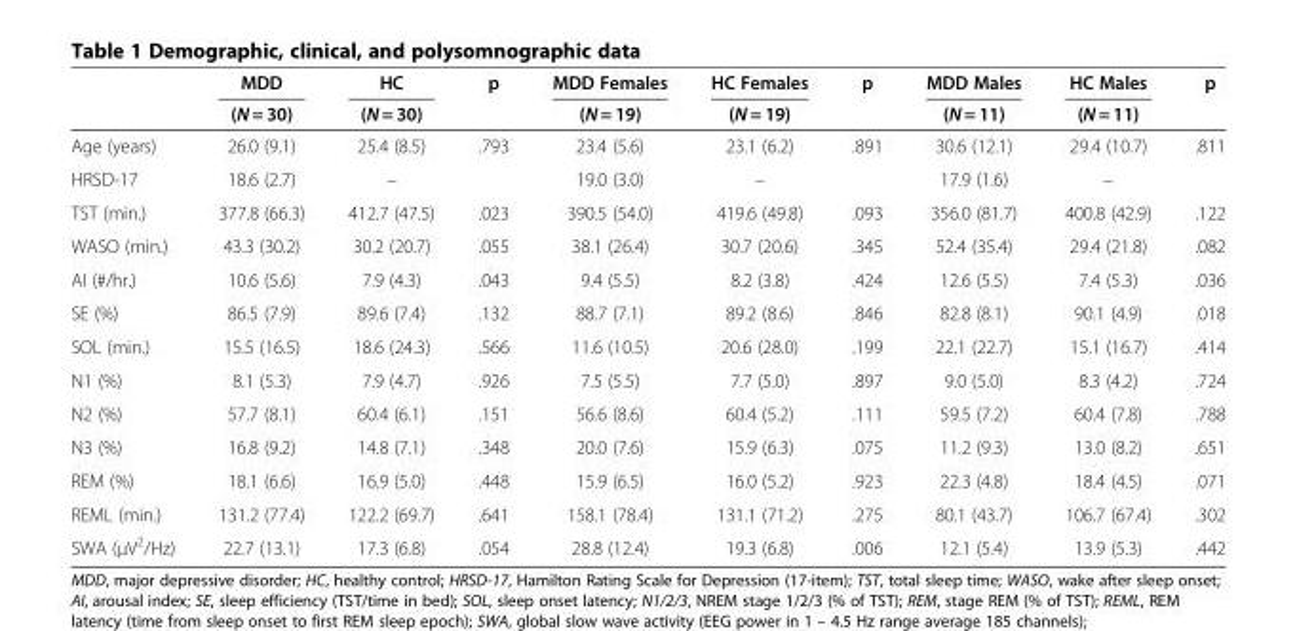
<table><thead><tr><td rowspan="2"></td><td rowspan="2">MDD (N = 30)</td><td rowspan="2">HC (N = 30)</td><td rowspan="2">p</td><td rowspan="2">MDD Females (N = 19)</td><td rowspan="2">HC Females (N = 19)</td><td rowspan="2">p</td><td rowspan="2">MDD Males (N = 11)</td><td rowspan="2">HC Males (N = 11)</td><td rowspan="2">p</td></tr><tr></tr></thead><tbody><tr><td>Age (years)</td><td>26.0 (9.1)</td><td>25.4 (8.5)</td><td>.793</td><td>23.4 (5.6)</td><td>23.1 (6.2)</td><td>.891</td><td>30.6 (12.1)</td><td>29.4 (10.7)</td><td>.811</td></tr><tr><td>HRSD-17</td><td>18.6 (2.7)</td><td>–</td><td></td><td>19.0 (3.0)</td><td>–</td><td></td><td>17.9 (1.6)</td><td>–</td><td></td></tr><tr><td>TST (min.)</td><td>377.8 (66.3)</td><td>412.7 (47.5)</td><td>.023</td><td>390.5 (54.0)</td><td>419.6 (49.8)</td><td>.093</td><td>356.0 (81.7)</td><td>400.8 (42.9)</td><td>.122</td></tr><tr><td>WASO (min.)</td><td>43.3 (30.2)</td><td>30.2 (20.7)</td><td>.055</td><td>38.1 (26.4)</td><td>30.7 (20.6)</td><td>.345</td><td>52.4 (35.4)</td><td>29.4 (21.8)</td><td>.082</td></tr><tr><td>AI (#/hr.)</td><td>10.6 (5.6)</td><td>7.9 (4.3)</td><td>.043</td><td>9.4 (5.5)</td><td>8.2 (3.8)</td><td>.424</td><td>12.6 (5.5)</td><td>7.4 (5.3)</td><td>.036</td></tr><tr><td>SE (%)</td><td>86.5 (7.9)</td><td>89.6 (7.4)</td><td>.132</td><td>88.7 (7.1)</td><td>89.2 (8.6)</td><td>.846</td><td>82.8 (8.1)</td><td>90.1 (4.9)</td><td>.018</td></tr><tr><td>SOL (min.)</td><td>15.5 (16.5)</td><td>18.6 (24.3)</td><td>.566</td><td>11.6 (10.5)</td><td>20.6 (28.0)</td><td>.199</td><td>22.1 (22.7)</td><td>15.1 (16.7)</td><td>.414</td></tr><tr><td>N1 (%)</td><td>8.1 (5.3)</td><td>7.9 (4.7)</td><td>.926</td><td>7.5 (5.5)</td><td>7.7 (5.0)</td><td>.897</td><td>9.0 (5.0)</td><td>8.3 (4.2)</td><td>.724</td></tr><tr><td>N2 (%)</td><td>57.7 (8.1)</td><td>60.4 (6.1)</td><td>.151</td><td>56.6 (8.6)</td><td>60.4 (5.2)</td><td>.111</td><td>59.5 (7.2)</td><td>60.4 (7.8)</td><td>.788</td></tr><tr><td>N3 (%)</td><td>16.8 (9.2)</td><td>14.8 (7.1)</td><td>.348</td><td>20.0 (7.6)</td><td>15.9 (6.3)</td><td>.075</td><td>11.2 (9.3)</td><td>13.0 (8.2)</td><td>.651</td></tr><tr><td>REM (%)</td><td>18.1 (6.6)</td><td>16.9 (5.0)</td><td>.448</td><td>15.9 (6.5)</td><td>16.0 (5.2)</td><td>.923</td><td>22.3 (4.8)</td><td>18.4 (4.5)</td><td>.071</td></tr><tr><td>REML (min.)</td><td>131.2 (77.4)</td><td>122.2 (69.7)</td><td>.641</td><td>158.1 (78.4)</td><td>131.1 (71.2)</td><td>.275</td><td>80.1 (43.7)</td><td>106.7 (67.4)</td><td>.302</td></tr><tr><td>SWA (μV<sup>2</sup>/Hz)</td><td>22.7 (13.1)</td><td>17.3 (6.8)</td><td>.054</td><td>28.8 (12.4)</td><td>19.3 (6.8)</td><td>.006</td><td>12.1 (5.4)</td><td>13.9 (5.3)</td><td>.442</td></tr></tbody></table>